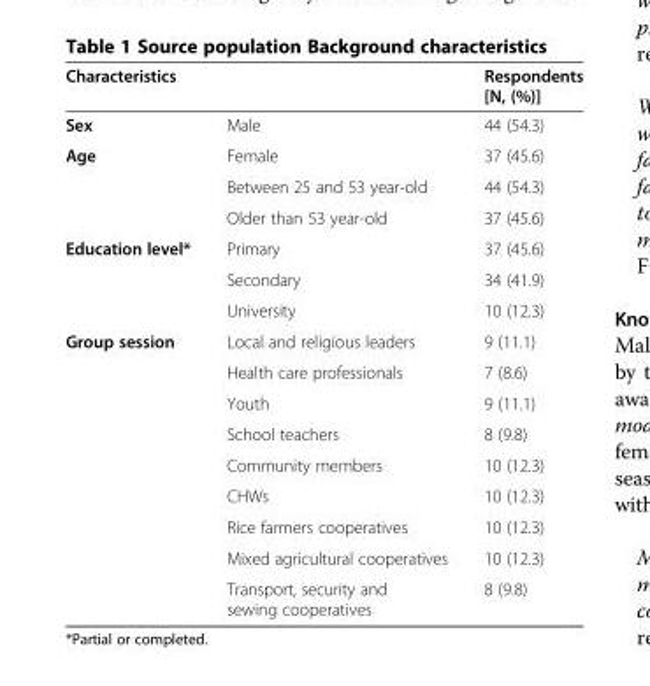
<table><thead><tr><td>Characteristics</td><td></td><td>Respondents [N, (%)]</td></tr></thead><tbody><tr><td>Sex</td><td>Male</td><td>44 (54.3)</td></tr><tr><td rowspan="3">Age</td><td>Female</td><td>37 (45.6)</td></tr><tr><td>Between 25 and 53 year-old</td><td>44 (54.3)</td></tr><tr><td>Older than 53 year-old</td><td>37 (45.6)</td></tr><tr><td rowspan="3">Education level*</td><td>Primary</td><td>37 (45.6)</td></tr><tr><td>Secondary</td><td>34 (41.9)</td></tr><tr><td>University</td><td>10 (12.3)</td></tr><tr><td rowspan="9">Group session</td><td>Local and religious leaders</td><td>9 (11.1)</td></tr><tr><td>Health care professionals</td><td>7 (8.6)</td></tr><tr><td>Youth</td><td>9 (11.1)</td></tr><tr><td>School teachers</td><td>8 (9.8)</td></tr><tr><td>Community members</td><td>10 (12.3)</td></tr><tr><td>CHWs</td><td>10 (12.3)</td></tr><tr><td>Rice farmers cooperatives</td><td>10 (12.3)</td></tr><tr><td>Mixed agricultural cooperatives</td><td>10 (12.3)</td></tr><tr><td>Transport, security and sewing cooperatives</td><td>8 (9.8)</td></tr></tbody></table>